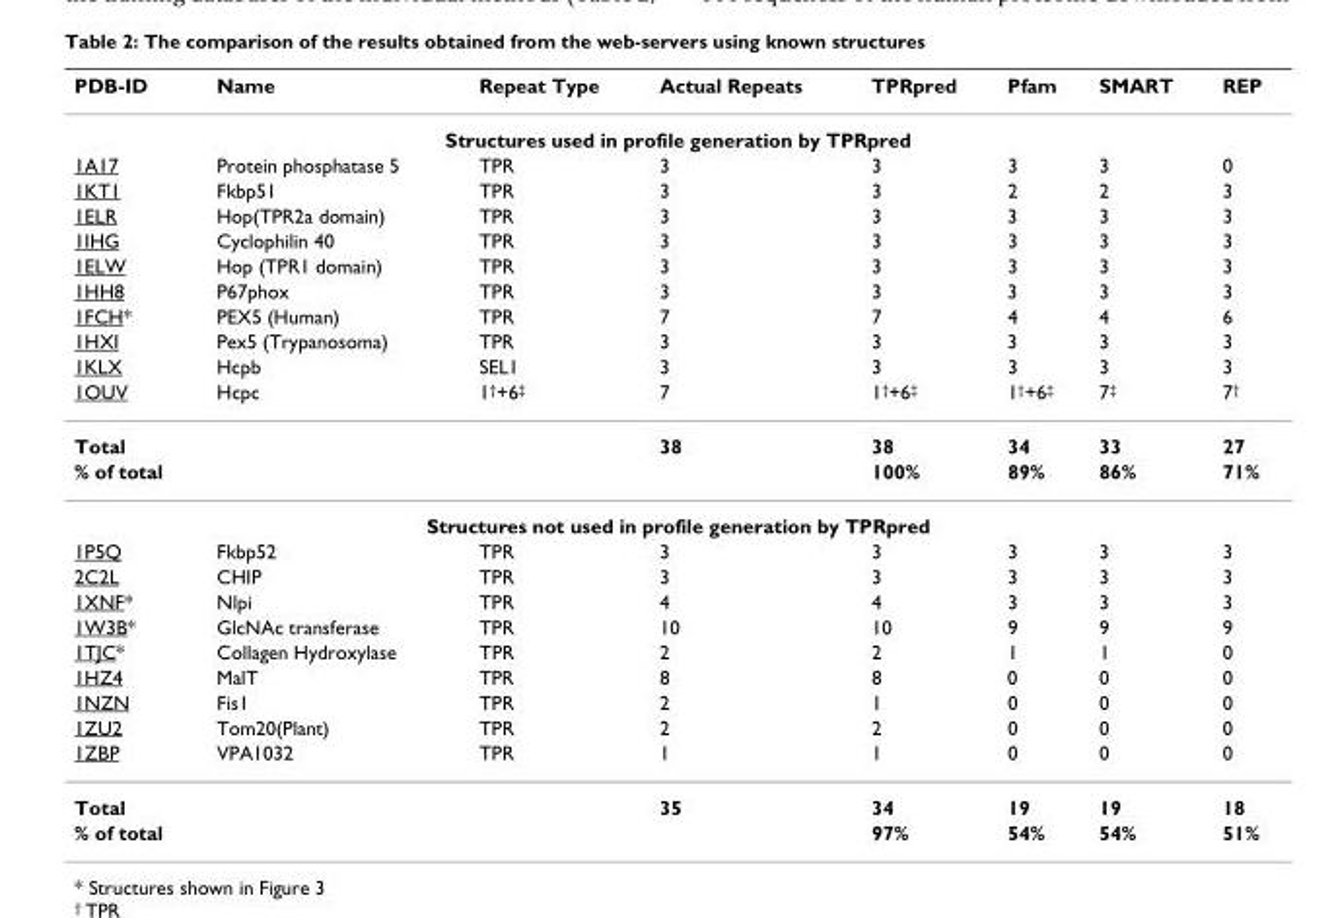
<table><thead><tr><td>PDB-ID</td><td>Name</td><td>Repeat Type</td><td>Actual Repeats</td><td>TPRpred</td><td>Pfam</td><td>SMART</td><td>REP</td></tr></thead><tbody><tr><td colspan="8">Structures used in profile generation by TPRpred</td></tr><tr><td>1A17</td><td>Protein phosphatase 5</td><td>TPR</td><td>3</td><td>3</td><td>3</td><td>3</td><td>0</td></tr><tr><td>1KT1</td><td>Fkbp51</td><td>TPR</td><td>3</td><td>3</td><td>2</td><td>2</td><td>3</td></tr><tr><td>1ELR</td><td>Hop(TPR2a domain)</td><td>TPR</td><td>3</td><td>3</td><td>3</td><td>3</td><td>3</td></tr><tr><td>1IHG</td><td>Cyclophilin 40</td><td>TPR</td><td>3</td><td>3</td><td>3</td><td>3</td><td>3</td></tr><tr><td>1ELW</td><td>Hop (TPR1 domain)</td><td>TPR</td><td>3</td><td>3</td><td>3</td><td>3</td><td>3</td></tr><tr><td>1HH8</td><td>P67phox</td><td>TPR</td><td>3</td><td>3</td><td>3</td><td>3</td><td>3</td></tr><tr><td>1FCH*</td><td>PEX5 (Human)</td><td>TPR</td><td>7</td><td>7</td><td>4</td><td>4</td><td>6</td></tr><tr><td>1HXI</td><td>Pex5 (Trypanosoma)</td><td>TPR</td><td>3</td><td>3</td><td>3</td><td>3</td><td>3</td></tr><tr><td>1KLX</td><td>Hcpb</td><td>SEL1</td><td>3</td><td>3</td><td>3</td><td>3</td><td>3</td></tr><tr><td>1OUV</td><td>Hcpc</td><td>1<sup>†</sup>+6<sup>‡</sup></td><td>7</td><td>1<sup>†</sup>+6<sup>‡</sup></td><td>1<sup>†</sup>+6<sup>‡</sup></td><td>7<sup>‡</sup></td><td>7<sup>†</sup></td></tr><tr><td>Total</td><td></td><td></td><td>38</td><td>38</td><td>34</td><td>33</td><td>27</td></tr><tr><td>% of total</td><td></td><td></td><td></td><td>100%</td><td>89%</td><td>86%</td><td>71%</td></tr><tr><td colspan="8">Structures not used in profile generation by TPRpred</td></tr><tr><td>1P5Q</td><td>Fkbp52</td><td>TPR</td><td>3</td><td>3</td><td>3</td><td>3</td><td>3</td></tr><tr><td>2C2L</td><td>CHIP</td><td>TPR</td><td>3</td><td>3</td><td>3</td><td>3</td><td>3</td></tr><tr><td>1XNF*</td><td>Nlpi</td><td>TPR</td><td>4</td><td>4</td><td>3</td><td>3</td><td>3</td></tr><tr><td>1W3B*</td><td>GlcNAc transferase</td><td>TPR</td><td>10</td><td>10</td><td>9</td><td>9</td><td>9</td></tr><tr><td>1TJC*</td><td>Collagen Hydroxylase</td><td>TPR</td><td>2</td><td>2</td><td>1</td><td>1</td><td>0</td></tr><tr><td>1HZ4</td><td>MalT</td><td>TPR</td><td>8</td><td>8</td><td>0</td><td>0</td><td>0</td></tr><tr><td>1NZN</td><td>Fis1</td><td>TPR</td><td>2</td><td>1</td><td>0</td><td>0</td><td>0</td></tr><tr><td>1ZU2</td><td>Tom20(Plant)</td><td>TPR</td><td>2</td><td>2</td><td>0</td><td>0</td><td>0</td></tr><tr><td>1ZBP</td><td>VPA1032</td><td>TPR</td><td>1</td><td>1</td><td>0</td><td>0</td><td>0</td></tr><tr><td>Total</td><td></td><td></td><td>35</td><td>34</td><td>19</td><td>19</td><td>18</td></tr><tr><td>% of total</td><td></td><td></td><td></td><td>97%</td><td>54%</td><td>54%</td><td>51%</td></tr></tbody></table>